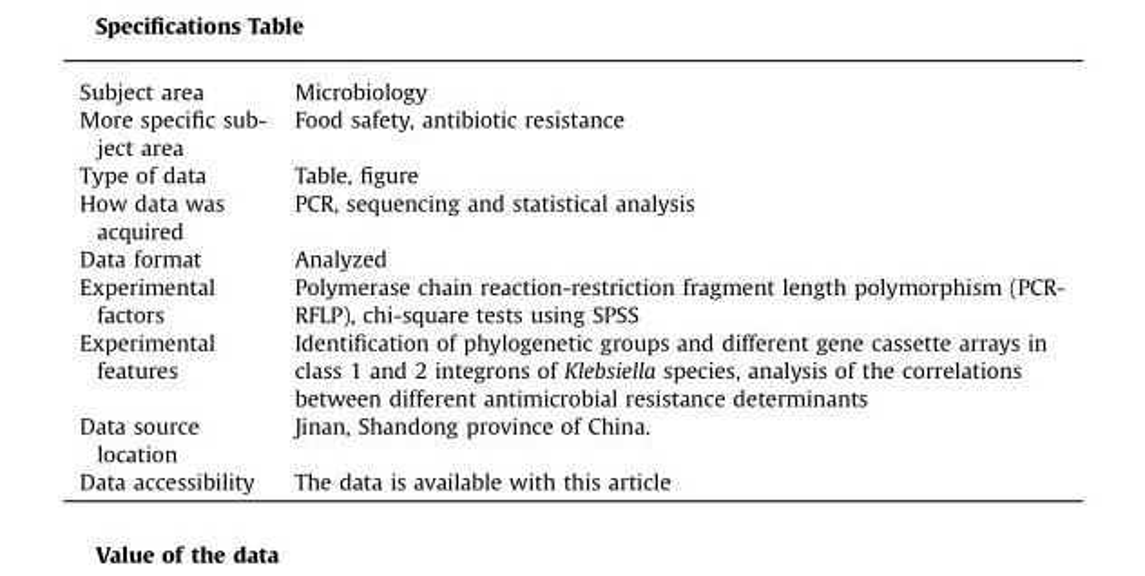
<table><tbody><tr><td>Subject area</td><td>Microbiology</td></tr><tr><td>More specific sub- ject area</td><td>Food safety, antibiotic resistance</td></tr><tr><td>Type of data</td><td>Table, figure</td></tr><tr><td>How data was acquired</td><td>PCR, sequencing and statistical analysis</td></tr><tr><td>Data format</td><td>Analyzed</td></tr><tr><td>Experimental factors</td><td>Polymerase chain reaction-restriction fragment length polymorphism (PCR- RFLP), chi-square tests using SPSS</td></tr><tr><td>Experimental features</td><td>Identification of phylogenetic groups and different gene cassette arrays in class 1 and 2 integrons of Klebsiella species, analysis of the correlations between different antimicrobial resistance determinants</td></tr><tr><td>Data source location</td><td>Jinan, Shandong province of China.</td></tr><tr><td>Data accessibility</td><td>The data is available with this article</td></tr></tbody></table>